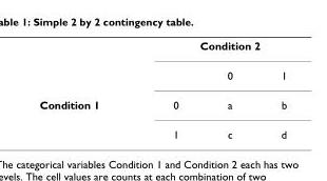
<table><thead><tr><td rowspan="2"></td><td colspan="3">Condition 2</td></tr><tr><td></td><td>0</td><td>1</td></tr></thead><tbody><tr><td rowspan="2">Condition 1</td><td>0</td><td>a</td><td>b</td></tr><tr><td>1</td><td>c</td><td>d</td></tr></tbody></table>